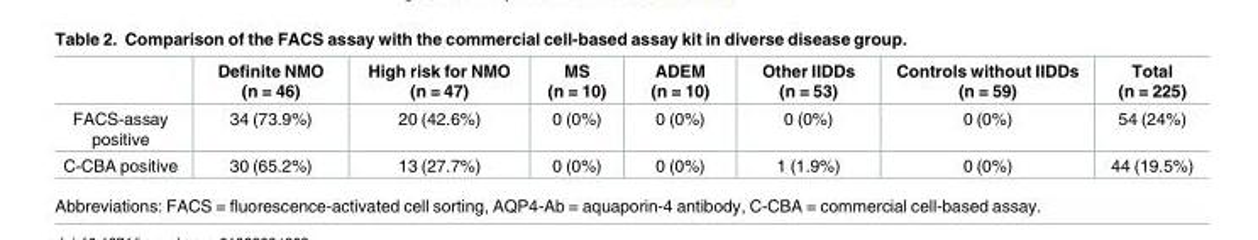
<table><thead><tr><td></td><td>Definite NMO (n = 46)</td><td>High risk for NMO (n = 47)</td><td>MS (n = 10)</td><td>ADEM (n = 10)</td><td>Other IIDDs (n = 53)</td><td>Controls without IIDDs (n = 59)</td><td>Total (n = 225)</td></tr></thead><tbody><tr><td>FACS-assay positive</td><td>34 (73.9%)</td><td>20 (42.6%)</td><td>0 (0%)</td><td>0 (0%)</td><td>0 (0%)</td><td>0 (0%)</td><td>54 (24%)</td></tr><tr><td>C-CBA positive</td><td>30 (65.2%)</td><td>13 (27.7%)</td><td>0 (0%)</td><td>0 (0%)</td><td>1 (1.9%)</td><td>0 (0%)</td><td>44 (19.5%)</td></tr></tbody></table>